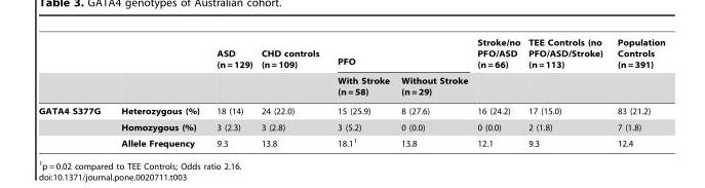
<table><thead><tr><td rowspan="2"></td><td rowspan="2"></td><td rowspan="2">ASD (n = 129)</td><td rowspan="2">CHD controls (n = 109)</td><td colspan="2">PFO</td><td rowspan="2">Stroke/no PFO/ASD (n = 66)</td><td rowspan="2">TEE Controls (no PFO/ASD/Stroke) (n = 113)</td><td rowspan="2">Population Controls (n = 391)</td></tr><tr><td>With Stroke (n = 58)</td><td>Without Stroke (n = 29)</td></tr></thead><tbody><tr><td rowspan="3">GATA4 S377G</td><td>Heterozygous (%)</td><td>18 (14)</td><td>24 (22.0)</td><td>15 (25.9)</td><td>8 (27.6)</td><td>16 (24.2)</td><td>17 (15.0)</td><td>83 (21.2)</td></tr><tr><td>Homozygous (%)</td><td>3 (2.3)</td><td>3 (2.8)</td><td>3 (5.2)</td><td>0 (0.0)</td><td>0 (0.0)</td><td>2 (1.8)</td><td>7 (1.8)</td></tr><tr><td>Allele Frequency</td><td>9.3</td><td>13.8</td><td>18.1<sup>1</sup></td><td>13.8</td><td>12.1</td><td>9.3</td><td>12.4</td></tr></tbody></table>